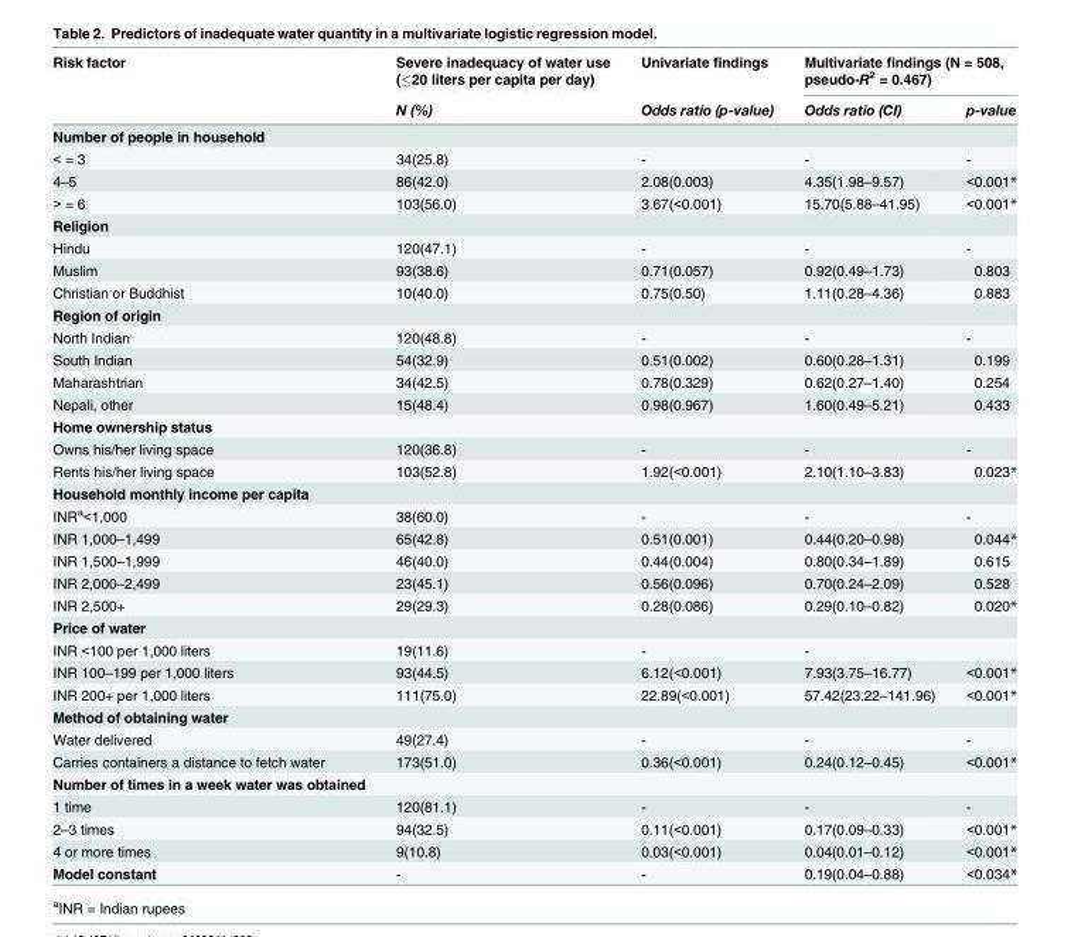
<table><thead><tr><td rowspan="2">Risk factor</td><td rowspan="2">Severe inadequacy of water use (≤20 liters per capita per day) N (%)</td><td rowspan="2">Univariate findings Odds ratio (p-value)</td><td colspan="2">Multivariate findings (N = 508, pseudo-R<sup>2</sup> = 0.467)</td></tr><tr><td>Odds ratio (CI)</td><td>p-value</td></tr></thead><tbody><tr><td colspan="5">Number of people in household</td></tr><tr><td>&lt; = 3</td><td>34(25.8)</td><td>-</td><td>-</td><td>-</td></tr><tr><td>4–5</td><td>86(42.0)</td><td>2.08(0.003)</td><td>4.35(1.98–9.57)</td><td>&lt;0.001*</td></tr><tr><td>&gt; = 6</td><td>103(56.0)</td><td>3.67(&lt;0.001)</td><td>15.70(5.88–41.95)</td><td>&lt;0.001*</td></tr><tr><td colspan="5">Religion</td></tr><tr><td>Hindu</td><td>120(47.1)</td><td>-</td><td>-</td><td>-</td></tr><tr><td>Muslim</td><td>93(38.6)</td><td>0.71(0.057)</td><td>0.92(0.49–1.73)</td><td>0.803</td></tr><tr><td>Christian or Buddhist</td><td>10(40.0)</td><td>0.75(0.50)</td><td>1.11(0.28–4.36)</td><td>0.883</td></tr><tr><td colspan="5">Region of origin</td></tr><tr><td>North Indian</td><td>120(48.8)</td><td>-</td><td>-</td><td>-</td></tr><tr><td>South Indian</td><td>54(32.9)</td><td>0.51(0.002)</td><td>0.60(0.28–1.31)</td><td>0.199</td></tr><tr><td>Maharashtrian</td><td>34(42.5)</td><td>0.78(0.329)</td><td>0.62(0.27–1.40)</td><td>0.254</td></tr><tr><td>Nepali, other</td><td>15(48.4)</td><td>0.98(0.967)</td><td>1.60(0.49–5.21)</td><td>0.433</td></tr><tr><td colspan="5">Home ownership status</td></tr><tr><td>Owns his/her living space</td><td>120(36.8)</td><td>-</td><td>-</td><td>-</td></tr><tr><td>Rents his/her living space</td><td>103(52.8)</td><td>1.92(&lt;0.001)</td><td>2.10(1.10–3.83)</td><td>0.023*</td></tr><tr><td colspan="5">Household monthly income per capita</td></tr><tr><td>INR<sup>a</sup>&lt;1,000</td><td>38(60.0)</td><td>-</td><td>-</td><td>-</td></tr><tr><td>INR 1,000–1,499</td><td>65(42.8)</td><td>0.51(0.001)</td><td>0.44(0.20–0.98)</td><td>0.044*</td></tr><tr><td>INR 1,500–1,999</td><td>46(40.0)</td><td>0.44(0.004)</td><td>0.80(0.34–1.89)</td><td>0.615</td></tr><tr><td>INR 2,000–2,499</td><td>23(45.1)</td><td>0.56(0.096)</td><td>0.70(0.24–2.09)</td><td>0.528</td></tr><tr><td>INR 2,500+</td><td>29(29.3)</td><td>0.28(0.086)</td><td>0.29(0.10–0.82)</td><td>0.020*</td></tr><tr><td colspan="5">Price of water</td></tr><tr><td>INR &lt;100 per 1,000 liters</td><td>19(11.6)</td><td>-</td><td>-</td><td></td></tr><tr><td>INR 100–199 per 1,000 liters</td><td>93(44.5)</td><td>6.12(&lt;0.001)</td><td>7.93(3.75–16.77)</td><td>&lt;0.001*</td></tr><tr><td>INR 200+ per 1,000 liters</td><td>111(75.0)</td><td>22.89(&lt;0.001)</td><td>57.42(23.22–141.96)</td><td>&lt;0.001*</td></tr><tr><td colspan="5">Method of obtaining water</td></tr><tr><td>Water delivered</td><td>49(27.4)</td><td>-</td><td>-</td><td>-</td></tr><tr><td>Carries containers a distance to fetch water</td><td>173(51.0)</td><td>0.36(&lt;0.001)</td><td>0.24(0.12–0.45)</td><td>&lt;0.001*</td></tr><tr><td colspan="5">Number of times in a week water was obtained</td></tr><tr><td>1 time</td><td>120(81.1)</td><td>-</td><td>-</td><td>-</td></tr><tr><td>2–3 times</td><td>94(32.5)</td><td>0.11(&lt;0.001)</td><td>0.17(0.09–0.33)</td><td>&lt;0.001*</td></tr><tr><td>4 or more times</td><td>9(10.8)</td><td>0.03(&lt;0.001)</td><td>0.04(0.01–0.12)</td><td>&lt;0.001*</td></tr><tr><td>Model constant</td><td>-</td><td>-</td><td>0.19(0.04–0.88)</td><td>&lt;0.034*</td></tr></tbody></table>